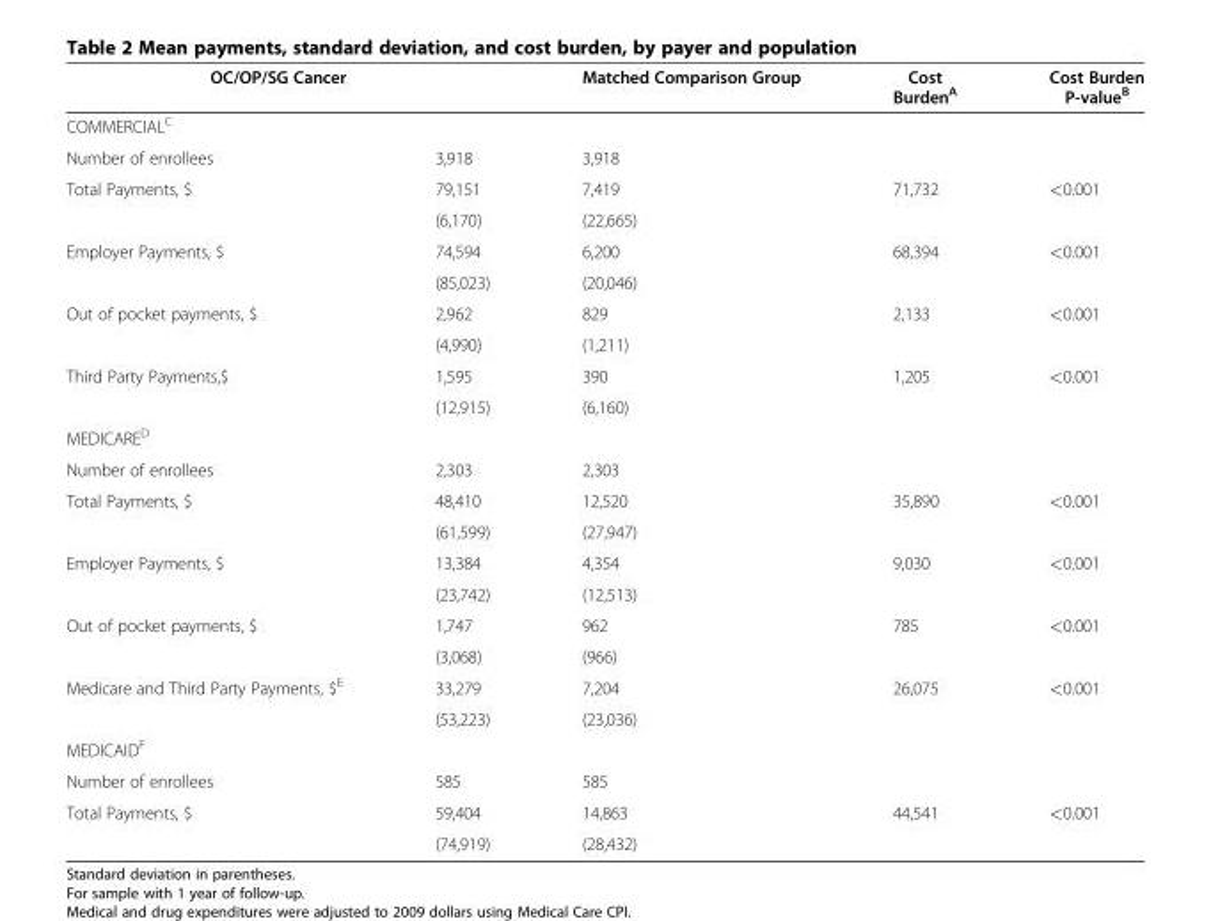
<table><thead><tr><td colspan="2">OC/OP/SG Cancer</td><td rowspan="2">Matched Comparison Group</td><td rowspan="2">Cost Burden<sup>A</sup></td><td rowspan="2">Cost Burden P-value<sup>B</sup></td></tr><tr><td>COMMERCIAL<sup>C</sup></td><td></td></tr></thead><tbody><tr><td>Number of enrollees</td><td>3,918</td><td>3,918</td><td></td><td></td></tr><tr><td rowspan="2">Total Payments, $</td><td>79,151</td><td>7,419</td><td>71,732</td><td>&lt;0.001</td></tr><tr><td>(6,170)</td><td>(22,665)</td><td></td><td></td></tr><tr><td rowspan="2">Employer Payments, $</td><td>74,594</td><td>6,200</td><td>68,394</td><td>&lt;0.001</td></tr><tr><td>(85,023)</td><td>(20,046)</td><td></td><td></td></tr><tr><td rowspan="2">Out of pocket payments, $</td><td>2,962</td><td>829</td><td>2,133</td><td>&lt;0.001</td></tr><tr><td>(4,990)</td><td>(1,211)</td><td></td><td></td></tr><tr><td rowspan="2">Third Party Payments,$</td><td>1,595</td><td>390</td><td>1,205</td><td>&lt;0.001</td></tr><tr><td>(12,915)</td><td>(6,160)</td><td></td><td></td></tr><tr><td colspan="5">MEDICARE<sup>D</sup></td></tr><tr><td>Number of enrollees</td><td>2,303</td><td>2,303</td><td></td><td></td></tr><tr><td rowspan="2">Total Payments, $</td><td>48,410</td><td>12,520</td><td>35,890</td><td>&lt;0.001</td></tr><tr><td>(61,599)</td><td>(27,947)</td><td></td><td></td></tr><tr><td rowspan="2">Employer Payments, $</td><td>13,384</td><td>4,354</td><td>9,030</td><td>&lt;0.001</td></tr><tr><td>(23,742)</td><td>(12,513)</td><td></td><td></td></tr><tr><td rowspan="2">Out of pocket payments, $</td><td>1,747</td><td>962</td><td>785</td><td>&lt;0.001</td></tr><tr><td>(3,068)</td><td>(966)</td><td></td><td></td></tr><tr><td rowspan="2">Medicare and Third Party Payments, $<sup>E</sup></td><td>33,279</td><td>7,204</td><td>26,075</td><td>&lt;0.001</td></tr><tr><td>(53,223)</td><td>(23,036)</td><td></td><td></td></tr><tr><td colspan="5">MEDICAID<sup>F</sup></td></tr><tr><td>Number of enrollees</td><td>585</td><td>585</td><td></td><td></td></tr><tr><td rowspan="2">Total Payments, $</td><td>59,404</td><td>14,863</td><td>44,541</td><td>&lt;0.001</td></tr><tr><td>(74,919)</td><td>(28,432)</td><td></td><td></td></tr></tbody></table>